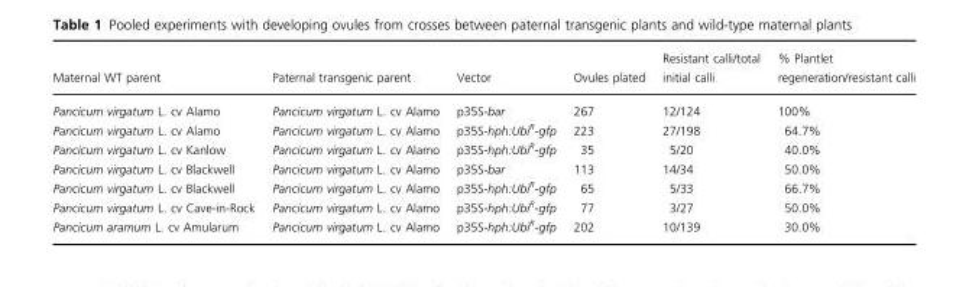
<table><thead><tr><td>Maternal WT parent</td><td>Paternal transgenic parent</td><td>Vector</td><td>Ovules plated</td><td>Resistant calli/total initial calli</td><td>% Plantlet regeneration/resistant calli</td></tr></thead><tbody><tr><td>Pancicum virgatum L. cv Alamo</td><td>Pancicum virgatum L. cv Alamo</td><td>p35S-bar</td><td>267</td><td>12/124</td><td>100%</td></tr><tr><td>Pancicum virgatum L. cv Alamo</td><td>Pancicum virgatum L. cv Alamo</td><td>p35S-hph:Ubi<sup>R</sup>-gfp</td><td>223</td><td>27/198</td><td>64.7%</td></tr><tr><td>Pancicum virgatum L. cv Kanlow</td><td>Pancicum virgatum L. cv Alamo</td><td>p35S-hph:Ubi<sup>R</sup>-gfp</td><td>35</td><td>5/20</td><td>40.0%</td></tr><tr><td>Pancicum virgatum L. cv Blackwell</td><td>Pancicum virgatum L. cv Alamo</td><td>p35S-bar</td><td>113</td><td>14/34</td><td>50.0%</td></tr><tr><td>Pancicum virgatum L. cv Blackwell</td><td>Pancicum virgatum L. cv Alamo</td><td>p35S-hph:Ubi<sup>R</sup>-gfp</td><td>65</td><td>5/33</td><td>66.7%</td></tr><tr><td>Pancicum virgatum L. cv Cave-in-Rock</td><td>Pancicum virgatum L. cv Alamo</td><td>p35S-hph:Ubi<sup>R</sup>-gfp</td><td>77</td><td>3/27</td><td>50.0%</td></tr><tr><td>Pancicum aramum L. cv Amularum</td><td>Pancicum virgatum L. cv Alamo</td><td>p35S-hph:Ubi<sup>R</sup>-gfp</td><td>202</td><td>10/139</td><td>30.0%</td></tr></tbody></table>